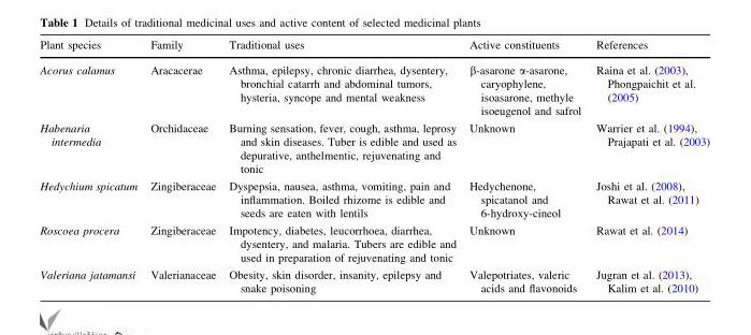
<table><thead><tr><td>Plant species</td><td>Family</td><td>Traditional uses</td><td>Active constituents</td><td>References</td></tr></thead><tbody><tr><td>Acorus calamus</td><td>Aracacerae</td><td>Asthma, epilepsy, chronic diarrhea, dysentery, bronchial catarrh and abdominal tumors, hysteria, syncope and mental weakness</td><td>β-asarone α-asarone, caryophylene, isoasarone, methyle isoeugenol and safrol</td><td>Raina et al. (2003), Phongpaichit et al. (2005)</td></tr><tr><td>Habenaria intermedia</td><td>Orchidaceae</td><td>Burning sensation, fever, cough, asthma, leprosy and skin diseases. Tuber is edible and used as depurative, anthelmentic, rejuvenating and tonic</td><td>Unknown</td><td>Warrier et al. (1994), Prajapati et al. (2003)</td></tr><tr><td>Hedychium spicatum</td><td>Zingiberaceae</td><td>Dyspepsia, nausea, asthma, vomiting, pain and inflammation. Boiled rhizome is edible and seeds are eaten with lentils</td><td>Hedychenone, spicatanol and 6-hydroxy-cineol</td><td>Joshi et al. (2008), Rawat et al. (2011)</td></tr><tr><td>Roscoea procera</td><td>Zingiberaceae</td><td>Impotency, diabetes, leucorrhoea, diarrhea, dysentery, and malaria. Tubers are edible and used in preparation of rejuvenating and tonic</td><td>Unknown</td><td>Rawat et al. (2014)</td></tr><tr><td>Valeriana jatamansi</td><td>Valerianaceae</td><td>Obesity, skin disorder, insanity, epilepsy and snake poisoning</td><td>Valepotriates, valeric acids and flavonoids</td><td>Jugran et al. (2013), Kalim et al. (2010)</td></tr></tbody></table>